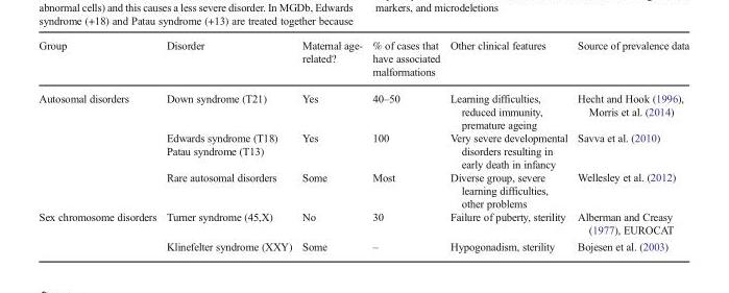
<table><thead><tr><td>Group</td><td>Disorder</td><td>Maternal age- related?</td><td>% of cases that have associated malformations</td><td>Other clinical features</td><td>Source of prevalence data</td></tr></thead><tbody><tr><td rowspan="4">Autosomal disorders</td><td>Down syndrome (T21)</td><td>Yes</td><td>40–50</td><td>Learning difficulties, reduced immunity, premature ageing</td><td>Hecht and Hook (1996), Morris et al. (2014)</td></tr><tr><td>Edwards syndrome (T18)</td><td rowspan="2">Yes</td><td rowspan="2">100</td><td rowspan="2">Very severe developmental disorders resulting in early death in infancy</td><td rowspan="2">Savva et al. (2010)</td></tr><tr><td>Patau syndrome (T13)</td></tr><tr><td>Rare autosomal disorders</td><td>Some</td><td>Most</td><td>Diverse group, severe learning difficulties, other problems</td><td>Wellesley et al. (2012)</td></tr><tr><td rowspan="2">Sex chromosome disorders</td><td>Turner syndrome (45,X)</td><td>No</td><td>30</td><td>Failure of puberty, sterility</td><td>Alberman and Creasy (1977), EUROCAT</td></tr><tr><td>Klinefelter syndrome (XXY)</td><td>Some</td><td>–</td><td>Hypogonadism, sterility</td><td>Bojesen et al. (2003)</td></tr></tbody></table>